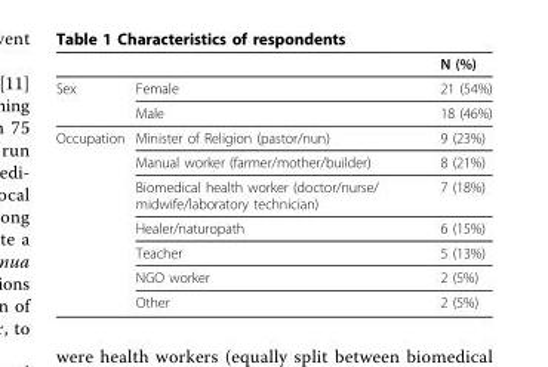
<table><thead><tr><td></td><td></td><td>N (%)</td></tr></thead><tbody><tr><td rowspan="2">Sex</td><td>Female</td><td>21 (54%)</td></tr><tr><td>Male</td><td>18 (46%)</td></tr><tr><td rowspan="7">Occupation</td><td>Minister of Religion (pastor/nun)</td><td>9 (23%)</td></tr><tr><td>Manual worker (farmer/mother/builder)</td><td>8 (21%)</td></tr><tr><td>Biomedical health worker (doctor/nurse/ midwife/laboratory technician)</td><td>7 (18%)</td></tr><tr><td>Healer/naturopath</td><td>6 (15%)</td></tr><tr><td>Teacher</td><td>5 (13%)</td></tr><tr><td>NGO worker</td><td>2 (5%)</td></tr><tr><td>Other</td><td>2 (5%)</td></tr></tbody></table>